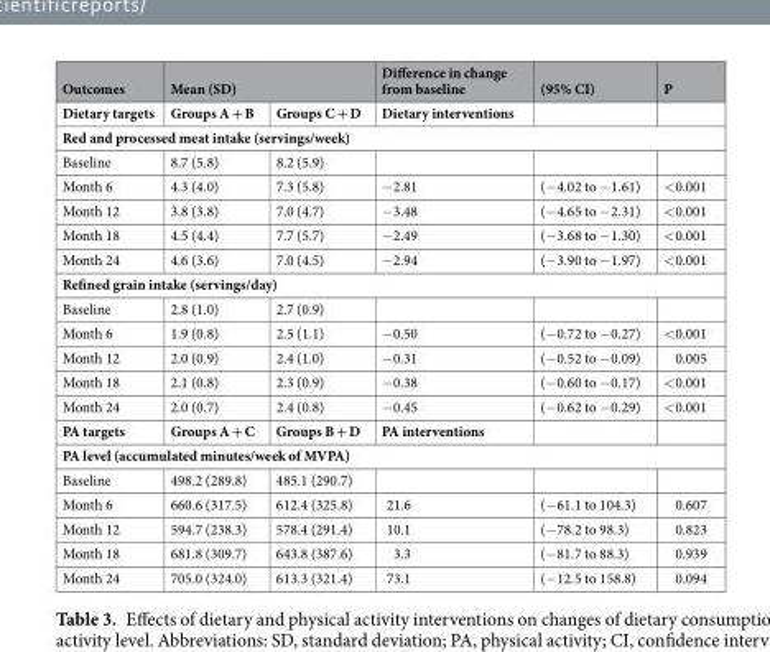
<table><thead><tr><td rowspan="2">Outcomes Dietary targets</td><td colspan="2">Mean (SD)</td><td rowspan="2">Difference in change from baseline Dietary interventions</td><td rowspan="2">(95% CI)</td><td rowspan="2">P</td></tr><tr><td>Groups A + B</td><td>Groups C + D</td></tr></thead><tbody><tr><td colspan="6">Red and processed meat intake (servings/week)</td></tr><tr><td>Baseline</td><td>8.7 (5.8)</td><td>8.2 (5.9)</td><td></td><td></td><td></td></tr><tr><td>Month 6</td><td>4.3 (4.0)</td><td>7.3 (5.8)</td><td>−2.81</td><td>(−4.02 to −1.61)</td><td>&lt;0.001</td></tr><tr><td>Month 12</td><td>3.8 (3.8)</td><td>7.0 (4.7)</td><td>−3.48</td><td>(−4.65 to −2.31)</td><td>&lt;0.001</td></tr><tr><td>Month 18</td><td>4.5 (4.4)</td><td>7.7 (5.7)</td><td>−2.49</td><td>(−3.68 to −1.30)</td><td>&lt;0.001</td></tr><tr><td>Month 24</td><td>4.6 (3.6)</td><td>7.0 (4.5)</td><td>−2.94</td><td>(−3.90 to −1.97)</td><td>&lt;0.001</td></tr><tr><td colspan="6">Refined grain intake (servings/day)</td></tr><tr><td>Baseline</td><td>2.8 (1.0)</td><td>2.7 (0.9)</td><td></td><td></td><td></td></tr><tr><td>Month 6</td><td>1.9 (0.8)</td><td>2.5 (1.1)</td><td>−0.50</td><td>(−0.72 to −0.27)</td><td>&lt;0.001</td></tr><tr><td>Month 12</td><td>2.0 (0.9)</td><td>2.4 (1.0)</td><td>−0.31</td><td>(−0.52 to −0.09)</td><td>0.005</td></tr><tr><td>Month 18</td><td>2.1 (0.8)</td><td>2.3 (0.9)</td><td>−0.38</td><td>(−0.60 to −0.17)</td><td>&lt;0.001</td></tr><tr><td>Month 24</td><td>2.0 (0.7)</td><td>2.4 (0.8)</td><td>−0.45</td><td>(−0.62 to −0.29)</td><td>&lt;0.001</td></tr><tr><td>PA targets</td><td>Groups A + C</td><td>Groups B + D</td><td>PA interventions</td><td></td><td></td></tr><tr><td colspan="6">PA level (accumulated minutes/week of MVPA)</td></tr><tr><td>Baseline</td><td>498.2 (289.8)</td><td>485.1 (290.7)</td><td></td><td></td><td></td></tr><tr><td>Month 6</td><td>660.6 (317.5)</td><td>612.4 (325.8)</td><td>21.6</td><td>(−61.1 to 104.3)</td><td>0.607</td></tr><tr><td>Month 12</td><td>594.7 (238.3)</td><td>578.4 (291.4)</td><td>10.1</td><td>(−78.2 to 98.3)</td><td>0.823</td></tr><tr><td>Month 18</td><td>681.8 (309.7)</td><td>643.8 (387.6)</td><td>3.3</td><td>(−81.7 to 88.3)</td><td>0.939</td></tr><tr><td>Month 24</td><td>705.0 (324.0)</td><td>613.3 (321.4)</td><td>73.1</td><td>(−12.5 to 158.8)</td><td>0.094</td></tr></tbody></table>